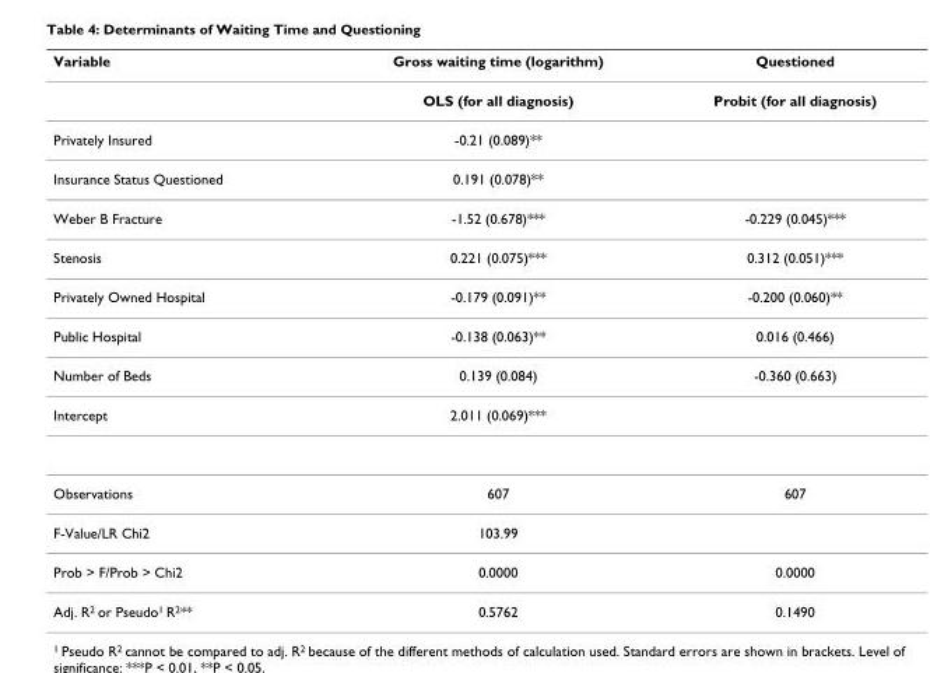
<table><thead><tr><td>Variable</td><td>Gross waiting time (logarithm)</td><td>Questioned</td></tr></thead><tbody><tr><td></td><td>OLS (for all diagnosis)</td><td>Probit (for all diagnosis)</td></tr><tr><td>Privately Insured</td><td>-0.21 (0.089)**</td><td></td></tr><tr><td>Insurance Status Questioned</td><td>0.191 (0.078)**</td><td></td></tr><tr><td>Weber B Fracture</td><td>-1.52 (0.678)***</td><td>-0.229 (0.045)***</td></tr><tr><td>Stenosis</td><td>0.221 (0.075)***</td><td>0.312 (0.051)***</td></tr><tr><td>Privately Owned Hospital</td><td>-0.179 (0.091)**</td><td>-0.200 (0.060)**</td></tr><tr><td>Public Hospital</td><td>-0.138 (0.063)**</td><td>0.016 (0.466)</td></tr><tr><td>Number of Beds</td><td>0.139 (0.084)</td><td>-0.360 (0.663)</td></tr><tr><td>Intercept</td><td>2.011 (0.069)***</td><td></td></tr><tr><td>Observations</td><td>607</td><td>607</td></tr><tr><td>F-Value/LR Chi2</td><td>103.99</td><td></td></tr><tr><td>Prob &gt; F/Prob &gt; Chi2</td><td>0.0000</td><td>0.0000</td></tr><tr><td>Adj. R2 or Pseudo1 R2**</td><td>0.5762</td><td>0.1490</td></tr></tbody></table>